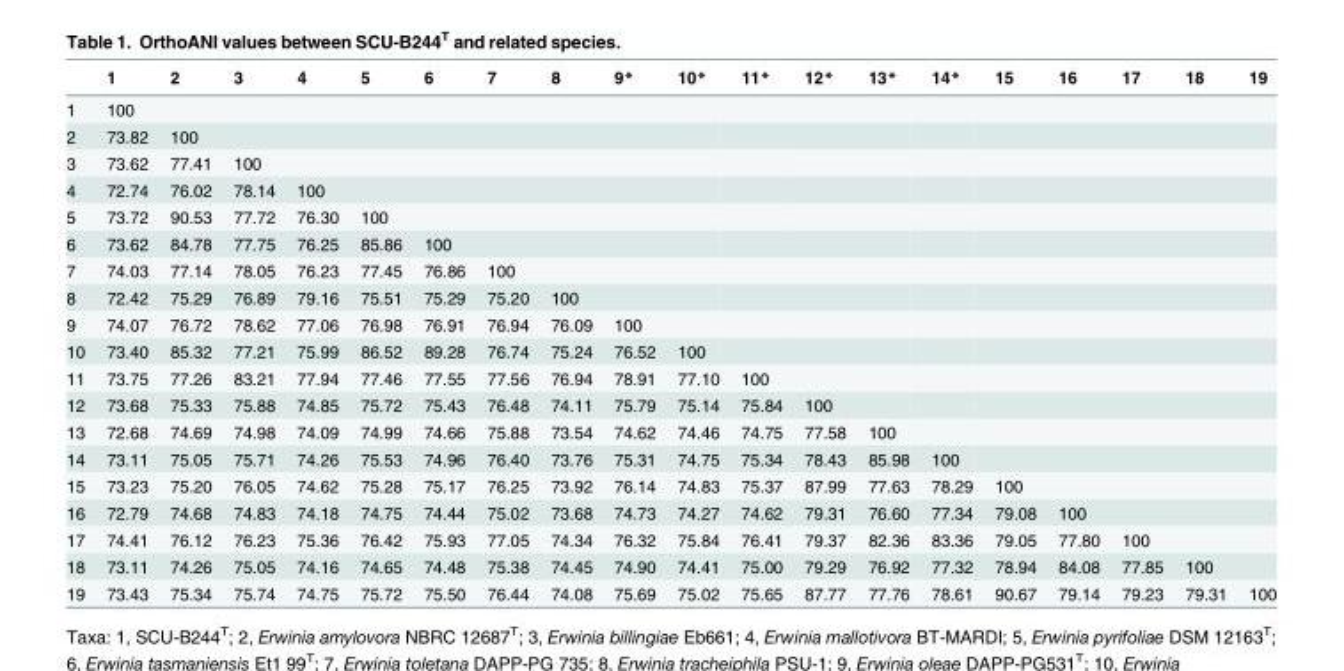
<table><thead><tr><td></td><td>1</td><td>2</td><td>3</td><td>4</td><td>5</td><td>6</td><td>7</td><td>8</td><td>9*</td><td>10*</td><td>11*</td><td>12*</td><td>13*</td><td>14*</td><td>15</td><td>16</td><td>17</td><td>18</td><td>19</td></tr></thead><tbody><tr><td>1</td><td>100</td><td></td><td></td><td></td><td></td><td></td><td></td><td></td><td></td><td></td><td></td><td></td><td></td><td></td><td></td><td></td><td></td><td></td><td></td></tr><tr><td>2</td><td>73.82</td><td>100</td><td></td><td></td><td></td><td></td><td></td><td></td><td></td><td></td><td></td><td></td><td></td><td></td><td></td><td></td><td></td><td></td><td></td></tr><tr><td>3</td><td>73.62</td><td>77.41</td><td>100</td><td></td><td></td><td></td><td></td><td></td><td></td><td></td><td></td><td></td><td></td><td></td><td></td><td></td><td></td><td></td><td></td></tr><tr><td>4</td><td>72.74</td><td>76.02</td><td>78.14</td><td>100</td><td></td><td></td><td></td><td></td><td></td><td></td><td></td><td></td><td></td><td></td><td></td><td></td><td></td><td></td><td></td></tr><tr><td>5</td><td>73.72</td><td>90.53</td><td>77.72</td><td>76.30</td><td>100</td><td></td><td></td><td></td><td></td><td></td><td></td><td></td><td></td><td></td><td></td><td></td><td></td><td></td><td></td></tr><tr><td>6</td><td>73.62</td><td>84.78</td><td>77.75</td><td>76.25</td><td>85.86</td><td>100</td><td></td><td></td><td></td><td></td><td></td><td></td><td></td><td></td><td></td><td></td><td></td><td></td><td></td></tr><tr><td>7</td><td>74.03</td><td>77.14</td><td>78.05</td><td>76.23</td><td>77.45</td><td>76.86</td><td>100</td><td></td><td></td><td></td><td></td><td></td><td></td><td></td><td></td><td></td><td></td><td></td><td></td></tr><tr><td>8</td><td>72.42</td><td>75.29</td><td>76.89</td><td>79.16</td><td>75.51</td><td>75.29</td><td>75.20</td><td>100</td><td></td><td></td><td></td><td></td><td></td><td></td><td></td><td></td><td></td><td></td><td></td></tr><tr><td>9</td><td>74.07</td><td>76.72</td><td>78.62</td><td>77.06</td><td>76.98</td><td>76.91</td><td>76.94</td><td>76.09</td><td>100</td><td></td><td></td><td></td><td></td><td></td><td></td><td></td><td></td><td></td><td></td></tr><tr><td>10</td><td>73.40</td><td>85.32</td><td>77.21</td><td>75.99</td><td>86.52</td><td>89.28</td><td>76.74</td><td>75.24</td><td>76.52</td><td>100</td><td></td><td></td><td></td><td></td><td></td><td></td><td></td><td></td><td></td></tr><tr><td>11</td><td>73.75</td><td>77.26</td><td>83.21</td><td>77.94</td><td>77.46</td><td>77.55</td><td>77.56</td><td>76.94</td><td>78.91</td><td>77.10</td><td>100</td><td></td><td></td><td></td><td></td><td></td><td></td><td></td><td></td></tr><tr><td>12</td><td>73.68</td><td>75.33</td><td>75.88</td><td>74.85</td><td>75.72</td><td>75.43</td><td>76.48</td><td>74.11</td><td>75.79</td><td>75.14</td><td>75.84</td><td>100</td><td></td><td></td><td></td><td></td><td></td><td></td><td></td></tr><tr><td>13</td><td>72.68</td><td>74.69</td><td>74.98</td><td>74.09</td><td>74.99</td><td>74.66</td><td>75.88</td><td>73.54</td><td>74.62</td><td>74.46</td><td>74.75</td><td>77.58</td><td>100</td><td></td><td></td><td></td><td></td><td></td><td></td></tr><tr><td>14</td><td>73.11</td><td>75.05</td><td>75.71</td><td>74.26</td><td>75.53</td><td>74.96</td><td>76.40</td><td>73.76</td><td>75.31</td><td>74.75</td><td>75.34</td><td>78.43</td><td>85.98</td><td>100</td><td></td><td></td><td></td><td></td><td></td></tr><tr><td>15</td><td>73.23</td><td>75.20</td><td>76.05</td><td>74.62</td><td>75.28</td><td>75.17</td><td>76.25</td><td>73.92</td><td>76.14</td><td>74.83</td><td>75.37</td><td>87.99</td><td>77.63</td><td>78.29</td><td>100</td><td></td><td></td><td></td><td></td></tr><tr><td>16</td><td>72.79</td><td>74.68</td><td>74.83</td><td>74.18</td><td>74.75</td><td>74.44</td><td>75.02</td><td>73.68</td><td>74.73</td><td>74.27</td><td>74.62</td><td>79.31</td><td>76.60</td><td>77.34</td><td>79.08</td><td>100</td><td></td><td></td><td></td></tr><tr><td>17</td><td>74.41</td><td>76.12</td><td>76.23</td><td>75.36</td><td>76.42</td><td>75.93</td><td>77.05</td><td>74.34</td><td>76.32</td><td>75.84</td><td>76.41</td><td>79.37</td><td>82.36</td><td>83.36</td><td>79.05</td><td>77.80</td><td>100</td><td></td><td></td></tr><tr><td>18</td><td>73.11</td><td>74.26</td><td>75.05</td><td>74.16</td><td>74.65</td><td>74.48</td><td>75.38</td><td>74.45</td><td>74.90</td><td>74.41</td><td>75.00</td><td>79.29</td><td>76.92</td><td>77.32</td><td>78.94</td><td>84.08</td><td>77.85</td><td>100</td><td></td></tr><tr><td>19</td><td>73.43</td><td>75.34</td><td>75.74</td><td>74.75</td><td>75.72</td><td>75.50</td><td>76.44</td><td>74.08</td><td>75.69</td><td>75.02</td><td>75.65</td><td>87.77</td><td>77.76</td><td>78.61</td><td>90.67</td><td>79.14</td><td>79.23</td><td>79.31</td><td>100</td></tr></tbody></table>